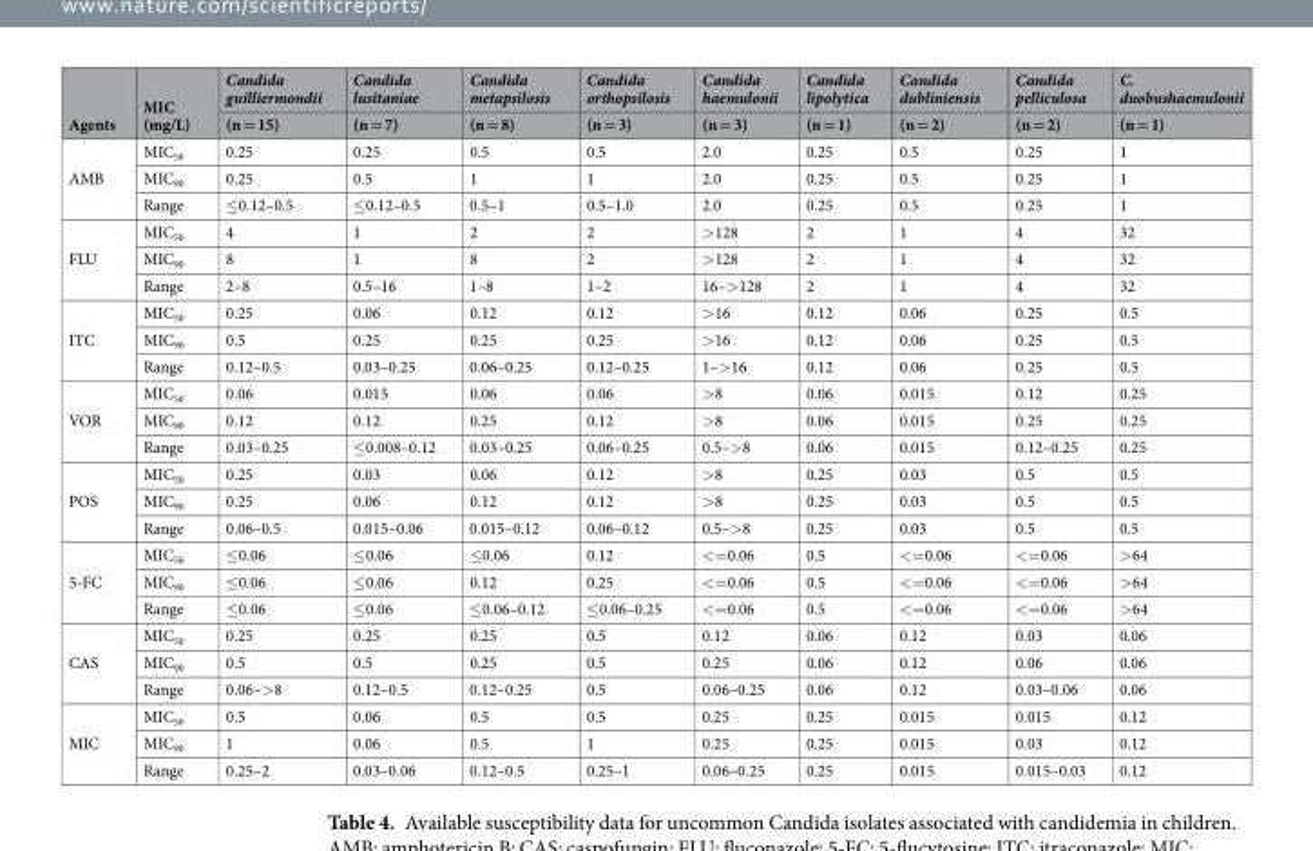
<table><thead><tr><td rowspan="2">Agents</td><td rowspan="2">MIC (mg/L)</td><td rowspan="2">Candida guilliermondii (n = 15)</td><td rowspan="2">Candida lusitaniae (n = 7)</td><td rowspan="2">Candida metapsilosis (n = 8)</td><td rowspan="2">Candida orthopsilosis (n = 3)</td><td rowspan="2">Candida haemulonii (n = 3)</td><td rowspan="2">Candida lipolytica (n = 1)</td><td rowspan="2">Candida dubliniensis (n = 2)</td><td rowspan="2">Candida pelliculosa (n = 2)</td><td rowspan="2">C. duobushaemulonii (n = 1)</td></tr><tr></tr></thead><tbody><tr><td rowspan="3">AMB</td><td>MIC<sub>50</sub></td><td>0.25</td><td>0.25</td><td>0.5</td><td>0.5</td><td>2.0</td><td>0.25</td><td>0.5</td><td>0.25</td><td>1</td></tr><tr><td>MIC<sub>90</sub></td><td>0.25</td><td>0.5</td><td>1</td><td>1</td><td>2.0</td><td>0.25</td><td>0.5</td><td>0.25</td><td>1</td></tr><tr><td>Range</td><td>≤0.12–0.5</td><td>≤0.12–0.5</td><td>0.5–1</td><td>0.5–1.0</td><td>2.0</td><td>0.25</td><td>0.5</td><td>0.25</td><td>1</td></tr><tr><td rowspan="3">FLU</td><td>MIC<sub>50</sub></td><td>4</td><td>1</td><td>2</td><td>2</td><td>&gt;128</td><td>2</td><td>1</td><td>4</td><td>32</td></tr><tr><td>MIC<sub>90</sub></td><td>8</td><td>1</td><td>8</td><td>2</td><td>&gt;128</td><td>2</td><td>1</td><td>4</td><td>32</td></tr><tr><td>Range</td><td>2–8</td><td>0.5–16</td><td>1–8</td><td>1–2</td><td>16–&gt;128</td><td>2</td><td>1</td><td>4</td><td>32</td></tr><tr><td rowspan="3">ITC</td><td>MIC<sub>50</sub></td><td>0.25</td><td>0.06</td><td>0.12</td><td>0.12</td><td>&gt;16</td><td>0.12</td><td>0.06</td><td>0.25</td><td>0.5</td></tr><tr><td>MIC<sub>90</sub></td><td>0.5</td><td>0.25</td><td>0.25</td><td>0.25</td><td>&gt;16</td><td>0.12</td><td>0.06</td><td>0.25</td><td>0.5</td></tr><tr><td>Range</td><td>0.12–0.5</td><td>0.03–0.25</td><td>0.06–0.25</td><td>0.12–0.25</td><td>1–&gt;16</td><td>0.12</td><td>0.06</td><td>0.25</td><td>0.5</td></tr><tr><td rowspan="3">VOR</td><td>MIC<sub>50</sub></td><td>0.06</td><td>0.015</td><td>0.06</td><td>0.06</td><td>&gt;8</td><td>0.06</td><td>0.015</td><td>0.12</td><td>0.25</td></tr><tr><td>MIC<sub>90</sub></td><td>0.12</td><td>0.12</td><td>0.25</td><td>0.12</td><td>&gt;8</td><td>0.06</td><td>0.015</td><td>0.25</td><td>0.25</td></tr><tr><td>Range</td><td>0.03–0.25</td><td>≤0.008–0.12</td><td>0.03–0.25</td><td>0.06–0.25</td><td>0.5–&gt;8</td><td>0.06</td><td>0.015</td><td>0.12–0.25</td><td>0.25</td></tr><tr><td rowspan="3">POS</td><td>MIC<sub>50</sub></td><td>0.25</td><td>0.03</td><td>0.06</td><td>0.12</td><td>&gt;8</td><td>0.25</td><td>0.03</td><td>0.5</td><td>0.5</td></tr><tr><td>MIC<sub>90</sub></td><td>0.25</td><td>0.06</td><td>0.12</td><td>0.12</td><td>&gt;8</td><td>0.25</td><td>0.03</td><td>0.5</td><td>0.5</td></tr><tr><td>Range</td><td>0.06–0.5</td><td>0.015–0.06</td><td>0.015–0.12</td><td>0.06–0.12</td><td>0.5–&gt;8</td><td>0.25</td><td>0.03</td><td>0.5</td><td>0.5</td></tr><tr><td rowspan="3">5-FC</td><td>MIC<sub>50</sub></td><td>≤0.06</td><td>≤0.06</td><td>≤0.06</td><td>0.12</td><td>&lt;=0.06</td><td>0.5</td><td>&lt;=0.06</td><td>&lt;=0.06</td><td>&gt;64</td></tr><tr><td>MIC<sub>90</sub></td><td>≤0.06</td><td>≤0.06</td><td>0.12</td><td>0.25</td><td>&lt;=0.06</td><td>0.5</td><td>&lt;=0.06</td><td>&lt;=0.06</td><td>&gt;64</td></tr><tr><td>Range</td><td>≤0.06</td><td>≤0.06</td><td>≤0.06–0.12</td><td>≤0.06–0.25</td><td>&lt;=0.06</td><td>0.5</td><td>&lt;=0.06</td><td>&lt;=0.06</td><td>&gt;64</td></tr><tr><td rowspan="3">CAS</td><td>MIC<sub>50</sub></td><td>0.25</td><td>0.25</td><td>0.25</td><td>0.5</td><td>0.12</td><td>0.06</td><td>0.12</td><td>0.03</td><td>0.06</td></tr><tr><td>MIC<sub>90</sub></td><td>0.5</td><td>0.5</td><td>0.25</td><td>0.5</td><td>0.25</td><td>0.06</td><td>0.12</td><td>0.06</td><td>0.06</td></tr><tr><td>Range</td><td>0.06–&gt;8</td><td>0.12–0.5</td><td>0.12–0.25</td><td>0.5</td><td>0.06–0.25</td><td>0.06</td><td>0.12</td><td>0.03–0.06</td><td>0.06</td></tr><tr><td rowspan="3">MIC</td><td>MIC<sub>50</sub></td><td>0.5</td><td>0.06</td><td>0.5</td><td>0.5</td><td>0.25</td><td>0.25</td><td>0.015</td><td>0.015</td><td>0.12</td></tr><tr><td>MIC<sub>90</sub></td><td>1</td><td>0.06</td><td>0.5</td><td>1</td><td>0.25</td><td>0.25</td><td>0.015</td><td>0.03</td><td>0.12</td></tr><tr><td>Range</td><td>0.25–2</td><td>0.03–0.06</td><td>0.12–0.5</td><td>0.25–1</td><td>0.06–0.25</td><td>0.25</td><td>0.015</td><td>0.015–0.03</td><td>0.12</td></tr></tbody></table>